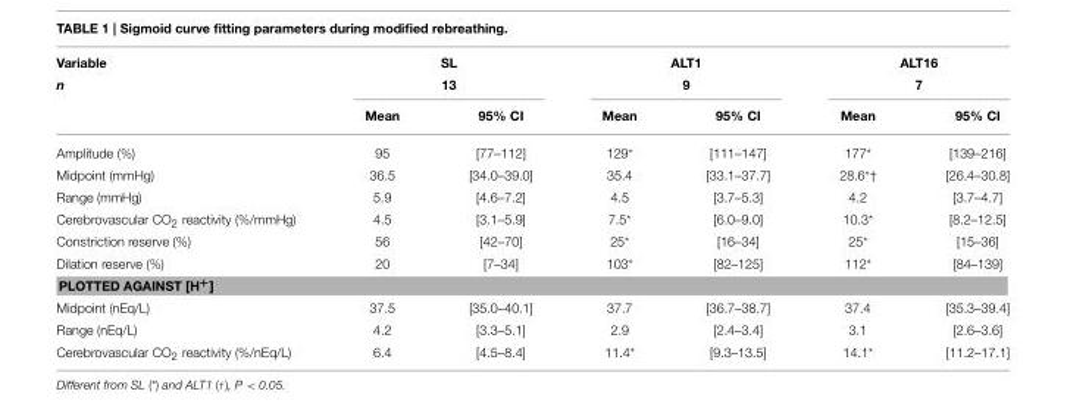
<table><thead><tr><td rowspan="3">Variable n</td><td rowspan="2" colspan="2">SL 13</td><td rowspan="2" colspan="2">ALT1 9</td><td rowspan="2" colspan="2">ALT16 7</td></tr><tr></tr><tr><td>Mean</td><td>95% CI</td><td>Mean</td><td>95% CI</td><td>Mean</td><td>95% CI</td></tr></thead><tbody><tr><td>Amplitude (%)</td><td>95</td><td>[77–112]</td><td>129*</td><td>[111–147]</td><td>177*</td><td>[139–216]</td></tr><tr><td>Midpoint (mmHg)</td><td>36.5</td><td>[34.0–39.0]</td><td>35.4</td><td>[33.1–37.7]</td><td>28.6<sup>*†</sup></td><td>[26.4–30.8]</td></tr><tr><td>Range (mmHg)</td><td>5.9</td><td>[4.6–7.2]</td><td>4.5</td><td>[3.7–5.3]</td><td>4.2</td><td>[3.7–4.7]</td></tr><tr><td>Cerebrovascular CO<sub>2</sub> reactivity (%/mmHg)</td><td>4.5</td><td>[3.1–5.9]</td><td>7.5*</td><td>[6.0–9.0]</td><td>10.3*</td><td>[8.2–12.5]</td></tr><tr><td>Constriction reserve (%)</td><td>56</td><td>[42–70]</td><td>25*</td><td>[16–34]</td><td>25*</td><td>[15–36]</td></tr><tr><td>Dilation reserve (%)</td><td>20</td><td>[7–34]</td><td>103*</td><td>[82–125]</td><td>112*</td><td>[84–139]</td></tr><tr><td colspan="7">PLOTTED AGAINST [H<sup>+</sup>]</td></tr><tr><td>Midpoint (nEq/L)</td><td>37.5</td><td>[35.0–40.1]</td><td>37.7</td><td>[36.7–38.7]</td><td>37.4</td><td>[35.3–39.4]</td></tr><tr><td>Range (nEq/L)</td><td>4.2</td><td>[3.3–5.1]</td><td>2.9</td><td>[2.4–3.4]</td><td>3.1</td><td>[2.6–3.6]</td></tr><tr><td>Cerebrovascular CO<sub>2</sub> reactivity (%/nEq/L)</td><td>6.4</td><td>[4.5–8.4]</td><td>11.4*</td><td>[9.3–13.5]</td><td>14.1*</td><td>[11.2–17.1]</td></tr></tbody></table>